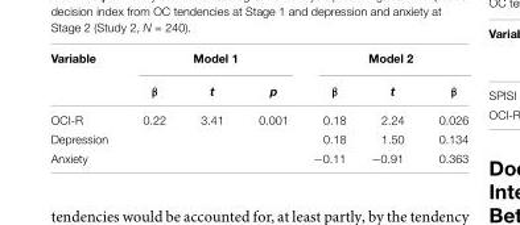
<table><thead><tr><td rowspan="2">Variable</td><td colspan="3">Model 1</td><td colspan="3">Model 2</td></tr><tr><td>β</td><td>t</td><td>p</td><td>β</td><td>t</td><td>β</td></tr></thead><tbody><tr><td>OCI-R</td><td>0.22</td><td>3.41</td><td>0.001</td><td>0.18</td><td>2.24</td><td>0.026</td></tr><tr><td>Depression</td><td></td><td></td><td></td><td>0.18</td><td>1.50</td><td>0.134</td></tr><tr><td>Anxiety</td><td></td><td></td><td></td><td>−0.11</td><td>−0.91</td><td>0.363</td></tr></tbody></table>